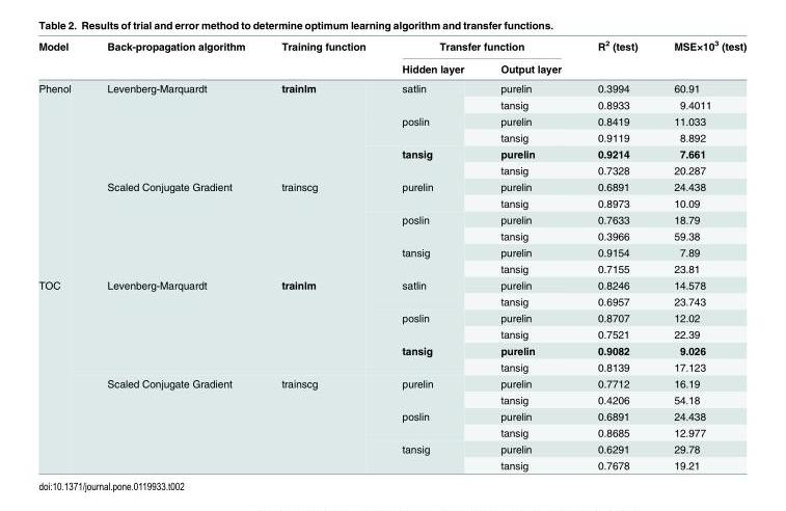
<table><thead><tr><td rowspan="2">Model</td><td rowspan="2">Back-propagation algorithm</td><td rowspan="2">Training function</td><td colspan="2">Transfer function</td><td rowspan="2">R<sup>2</sup> (test)</td><td rowspan="2">MSE×10<sup>3</sup> (test)</td></tr><tr><td>Hidden layer</td><td>Output layer</td></tr></thead><tbody><tr><td rowspan="12">Phenol</td><td rowspan="6">Levenberg-Marquardt</td><td rowspan="6">trainlm</td><td rowspan="2">satlin</td><td>purelin</td><td>0.3994</td><td>60.91</td></tr><tr><td>tansig</td><td>0.8933</td><td>9.4011</td></tr><tr><td rowspan="2">poslin</td><td>purelin</td><td>0.8419</td><td>11.033</td></tr><tr><td>tansig</td><td>0.9119</td><td>8.892</td></tr><tr><td rowspan="2">tansig</td><td>purelin</td><td>0.9214</td><td>7.661</td></tr><tr><td>tansig</td><td>0.7328</td><td>20.287</td></tr><tr><td rowspan="6">Scaled Conjugate Gradient</td><td rowspan="6">trainscg</td><td rowspan="2">purelin</td><td>purelin</td><td>0.6891</td><td>24.438</td></tr><tr><td>tansig</td><td>0.8973</td><td>10.09</td></tr><tr><td rowspan="2">poslin</td><td>purelin</td><td>0.7633</td><td>18.79</td></tr><tr><td>tansig</td><td>0.3966</td><td>59.38</td></tr><tr><td rowspan="2">tansig</td><td>purelin</td><td>0.9154</td><td>7.89</td></tr><tr><td>tansig</td><td>0.7155</td><td>23.81</td></tr><tr><td rowspan="12">TOC</td><td rowspan="6">Levenberg-Marquardt</td><td rowspan="6">trainlm</td><td rowspan="2">satlin</td><td>purelin</td><td>0.8246</td><td>14.578</td></tr><tr><td>tansig</td><td>0.6957</td><td>23.743</td></tr><tr><td rowspan="2">poslin</td><td>purelin</td><td>0.8707</td><td>12.02</td></tr><tr><td>tansig</td><td>0.7521</td><td>22.39</td></tr><tr><td rowspan="2">tansig</td><td>purelin</td><td>0.9082</td><td>9.026</td></tr><tr><td>tansig</td><td>0.8139</td><td>17.123</td></tr><tr><td rowspan="6">Scaled Conjugate Gradient</td><td rowspan="6">trainscg</td><td rowspan="2">purelin</td><td>purelin</td><td>0.7712</td><td>16.19</td></tr><tr><td>tansig</td><td>0.4206</td><td>54.18</td></tr><tr><td rowspan="2">poslin</td><td>purelin</td><td>0.6891</td><td>24.438</td></tr><tr><td>tansig</td><td>0.8685</td><td>12.977</td></tr><tr><td rowspan="2">tansig</td><td>purelin</td><td>0.6291</td><td>29.78</td></tr><tr><td>tansig</td><td>0.7678</td><td>19.21</td></tr></tbody></table>